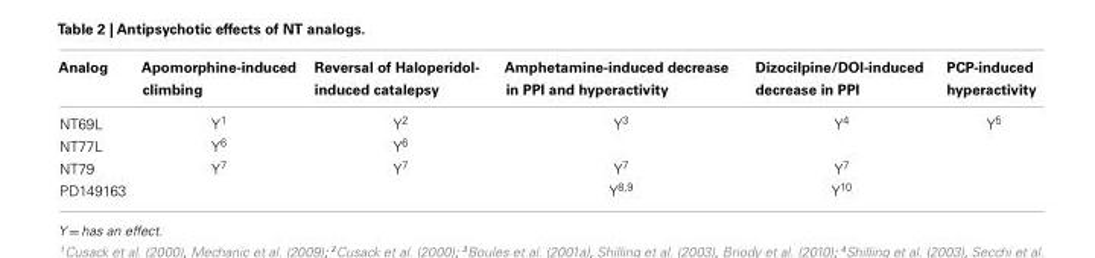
<table><thead><tr><td>Analog</td><td>Apomorphine-induced climbing</td><td>Reversal of Haloperidol- induced catalepsy</td><td>Amphetamine-induced decrease in PPI and hyperactivity</td><td>Dizocilpine/DOI-induced decrease in PPI</td><td>PCP-induced hyperactivity</td></tr></thead><tbody><tr><td>NT69L</td><td>Y<sup>1</sup></td><td>Y<sup>2</sup></td><td>Y<sup>3</sup></td><td>Y<sup>4</sup></td><td>Y<sup>5</sup></td></tr><tr><td>NT77L</td><td>Y<sup>6</sup></td><td>Y<sup>6</sup></td><td></td><td></td><td></td></tr><tr><td>NT79</td><td>Y<sup>7</sup></td><td>Y<sup>7</sup></td><td>Y<sup>7</sup></td><td>Y<sup>7</sup></td><td></td></tr><tr><td>PD149163</td><td></td><td></td><td>Y<sup>8,9</sup></td><td>Y<sup>10</sup></td><td></td></tr></tbody></table>